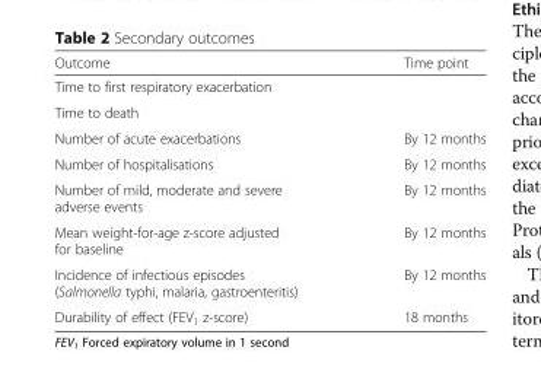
<table><thead><tr><td>Outcome</td><td>Time point</td></tr></thead><tbody><tr><td colspan="2">Time to first respiratory exacerbation</td></tr><tr><td colspan="2">Time to death</td></tr><tr><td>Number of acute exacerbations</td><td>By 12 months</td></tr><tr><td>Number of hospitalisations</td><td>By 12 months</td></tr><tr><td>Number of mild, moderate and severe adverse events</td><td>By 12 months</td></tr><tr><td>Mean weight-for-age z-score adjusted for baseline</td><td>By 12 months</td></tr><tr><td>Incidence of infectious episodes (Salmonella typhi, malaria, gastroenteritis)</td><td>By 12 months</td></tr><tr><td>Durability of effect (FEV<sub>1</sub> z-score)</td><td>18 months</td></tr></tbody></table>